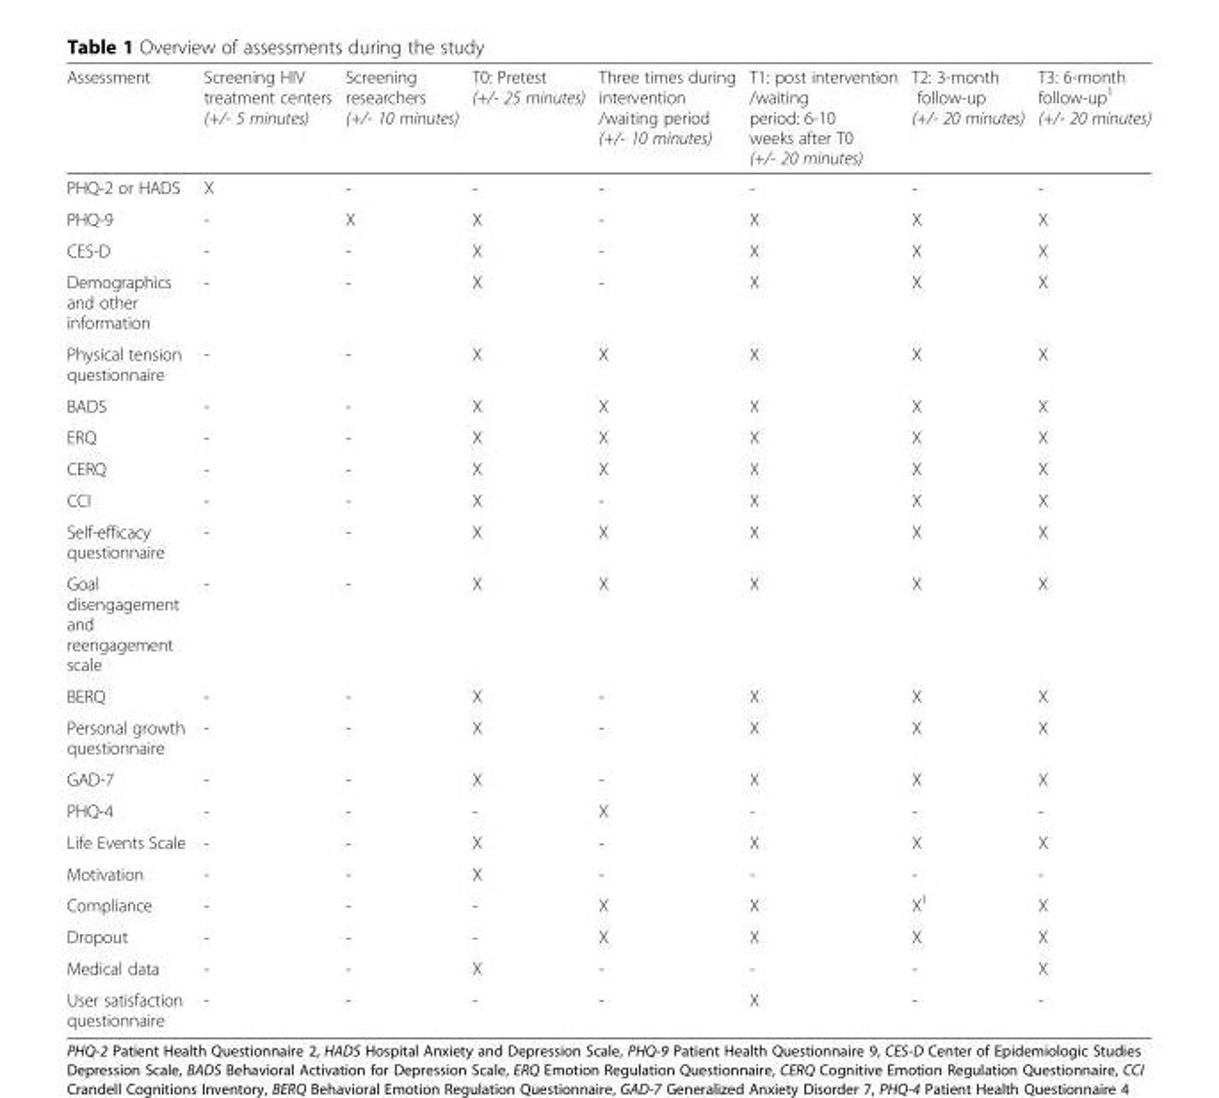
<table><thead><tr><td>Assessment</td><td>Screening HIV treatment centers (+/- 5 minutes)</td><td>Screening researchers (+/- 10 minutes)</td><td>T0: Pretest (+/- 25 minutes)</td><td>Three times during intervention /waiting period (+/- 10 minutes)</td><td>T1: post intervention /waiting period: 6-10 weeks after T0 (+/- 20 minutes)</td><td>T2: 3-month follow-up (+/- 20 minutes)</td><td>T3: 6-month follow-up<sup>1</sup> (+/- 20 minutes)</td></tr></thead><tbody><tr><td>PHQ-2 or HADS</td><td>X</td><td>-</td><td>-</td><td>-</td><td>-</td><td>-</td><td>-</td></tr><tr><td>PHQ-9</td><td>-</td><td>X</td><td>X</td><td>-</td><td>X</td><td>X</td><td>X</td></tr><tr><td>CES-D</td><td>-</td><td>-</td><td>X</td><td>-</td><td>X</td><td>X</td><td>X</td></tr><tr><td>Demographics and other information</td><td>-</td><td>-</td><td>X</td><td>-</td><td>X</td><td>X</td><td>X</td></tr><tr><td>Physical tension questionnaire</td><td>-</td><td>-</td><td>X</td><td>X</td><td>X</td><td>X</td><td>X</td></tr><tr><td>BADS</td><td>-</td><td>-</td><td>X</td><td>X</td><td>X</td><td>X</td><td>X</td></tr><tr><td>ERQ</td><td>-</td><td>-</td><td>X</td><td>X</td><td>X</td><td>X</td><td>X</td></tr><tr><td>CERQ</td><td>-</td><td>-</td><td>X</td><td>X</td><td>X</td><td>X</td><td>X</td></tr><tr><td>CCI</td><td>-</td><td>-</td><td>X</td><td>-</td><td>X</td><td>X</td><td>X</td></tr><tr><td>Self-efficacy questionnaire</td><td>-</td><td>-</td><td>X</td><td>X</td><td>X</td><td>X</td><td>X</td></tr><tr><td>Goal disengagement and reengagement scale</td><td>-</td><td>-</td><td>X</td><td>X</td><td>X</td><td>X</td><td>X</td></tr><tr><td>BERQ</td><td>-</td><td>-</td><td>X</td><td>-</td><td>X</td><td>X</td><td>X</td></tr><tr><td>Personal growth questionnaire</td><td>-</td><td>-</td><td>X</td><td>-</td><td>X</td><td>X</td><td>X</td></tr><tr><td>GAD-7</td><td>-</td><td>-</td><td>X</td><td>-</td><td>X</td><td>X</td><td>X</td></tr><tr><td>PHQ-4</td><td>-</td><td>-</td><td>-</td><td>X</td><td>-</td><td>-</td><td>-</td></tr><tr><td>Life Events Scale</td><td>-</td><td>-</td><td>X</td><td>-</td><td>X</td><td>X</td><td>X</td></tr><tr><td>Motivation</td><td>-</td><td>-</td><td>X</td><td>-</td><td>-</td><td>-</td><td>-</td></tr><tr><td>Compliance</td><td>-</td><td>-</td><td>-</td><td>X</td><td>X</td><td>X<sup>1</sup></td><td>X</td></tr><tr><td>Dropout</td><td>-</td><td>-</td><td>-</td><td>X</td><td>X</td><td>X</td><td>X</td></tr><tr><td>Medical data</td><td>-</td><td>-</td><td>X</td><td>-</td><td>-</td><td>-</td><td>X</td></tr><tr><td>User satisfaction questionnaire</td><td>-</td><td>-</td><td>-</td><td>-</td><td>X</td><td>-</td><td>-</td></tr></tbody></table>